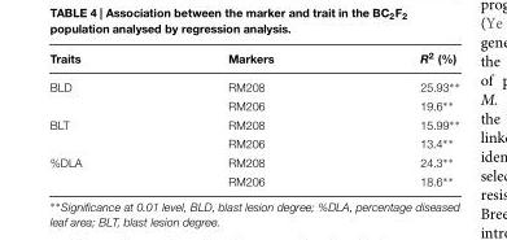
<table><thead><tr><td>Traits</td><td>Markers</td><td>R<sup>2</sup> (%)</td></tr></thead><tbody><tr><td rowspan="2">BLD</td><td>RM208</td><td>25.93∗</td></tr><tr><td>RM206</td><td>19.6∗∗</td></tr><tr><td rowspan="2">BLT</td><td>RM208</td><td>15.99∗</td></tr><tr><td>RM206</td><td>13.4∗∗</td></tr><tr><td rowspan="2">%DLA</td><td>RM208</td><td>24.3∗∗</td></tr><tr><td>RM206</td><td>18.6∗∗</td></tr></tbody></table>